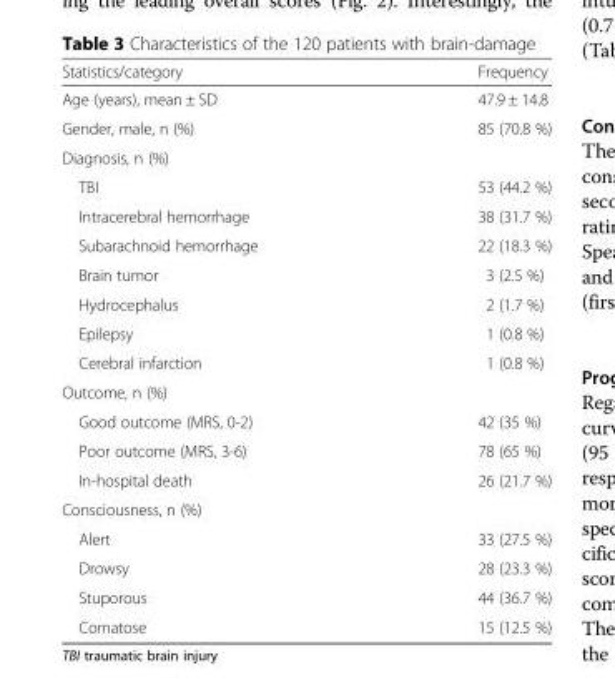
<table><thead><tr><td>Statistics/category</td><td>Frequency</td></tr></thead><tbody><tr><td>Age (years), mean ± SD</td><td>47.9 ± 14.8</td></tr><tr><td>Gender, male, n (%)</td><td>85 (70.8 %)</td></tr><tr><td colspan="2">Diagnosis, n (%)</td></tr><tr><td>TBI</td><td>53 (44.2 %)</td></tr><tr><td>Intracerebral hemorrhage</td><td>38 (31.7 %)</td></tr><tr><td>Subarachnoid hemorrhage</td><td>22 (18.3 %)</td></tr><tr><td>Brain tumor</td><td>3 (2.5 %)</td></tr><tr><td>Hydrocephalus</td><td>2 (1.7 %)</td></tr><tr><td>Epilepsy</td><td>1 (0.8 %)</td></tr><tr><td>Cerebral infarction</td><td>1 (0.8 %)</td></tr><tr><td colspan="2">Outcome, n (%)</td></tr><tr><td>Good outcome (MRS, 0-2)</td><td>42 (35 %)</td></tr><tr><td>Poor outcome (MRS, 3-6)</td><td>78 (65 %)</td></tr><tr><td>In-hospital death</td><td>26 (21.7 %)</td></tr><tr><td colspan="2">Consciousness, n (%)</td></tr><tr><td>Alert</td><td>33 (27.5 %)</td></tr><tr><td>Drowsy</td><td>28 (23.3 %)</td></tr><tr><td>Stuporous</td><td>44 (36.7 %)</td></tr><tr><td>Comatose</td><td>15 (12.5 %)</td></tr></tbody></table>